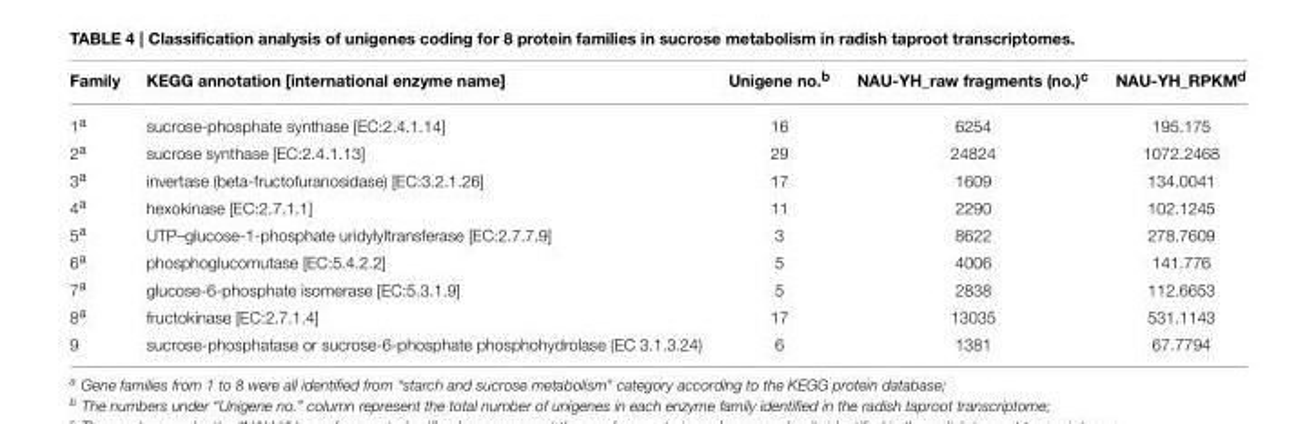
<table><thead><tr><td>Family</td><td>KEGG annotation [international enzyme name]</td><td>Unigene no.<sup>b</sup></td><td>NAU-YH_raw fragments (no.)<sup>c</sup></td><td>NAU-YH_RPKM<sup>d</sup></td></tr></thead><tbody><tr><td>1<sup>a</sup></td><td>sucrose-phosphate synthase [EC:2.4.1.14]</td><td>16</td><td>6254</td><td>195.175</td></tr><tr><td>2<sup>a</sup></td><td>sucrose synthase [EC:2.4.1.13]</td><td>29</td><td>24824</td><td>1072.2468</td></tr><tr><td>3<sup>a</sup></td><td>invertase (beta-fructofuranosidase) [EC:3.2.1.26]</td><td>17</td><td>1609</td><td>134.0041</td></tr><tr><td>4<sup>a</sup></td><td>hexokinase [EC:2.7.1.1]</td><td>11</td><td>2290</td><td>102.1245</td></tr><tr><td>5<sup>a</sup></td><td>UTP–glucose-1-phosphate uridylyltransferase [EC:2.7.7.9]</td><td>3</td><td>8622</td><td>278.7609</td></tr><tr><td>6<sup>a</sup></td><td>phosphoglucomutase [EC:5.4.2.2]</td><td>5</td><td>4006</td><td>141.776</td></tr><tr><td>7<sup>a</sup></td><td>glucose-6-phosphate isomerase [EC:5.3.1.9]</td><td>5</td><td>2838</td><td>112.6653</td></tr><tr><td>8<sup>a</sup></td><td>fructokinase [EC:2.7.1.4]</td><td>17</td><td>13035</td><td>531.1143</td></tr><tr><td>9</td><td>sucrose-phosphatase or sucrose-6-phosphate phosphohydrolase (EC 3.1.3.24)</td><td>6</td><td>1381</td><td>67.7794</td></tr></tbody></table>